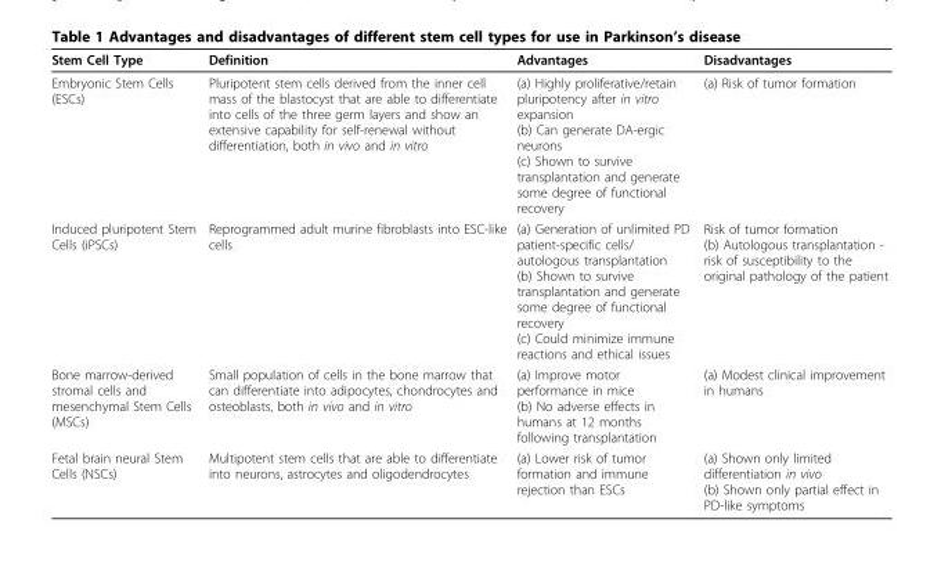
<table><thead><tr><td>Stem Cell Type</td><td>Definition</td><td>Advantages</td><td>Disadvantages</td></tr></thead><tbody><tr><td>Embryonic Stem Cells (ESCs)</td><td>Pluripotent stem cells derived from the inner cell mass of the blastocyst that are able to differentiate into cells of the three germ layers and show an extensive capability for self-renewal without differentiation, both in vivo and in vitro</td><td>(a) Highly proliferative/retain pluripotency after in vitro expansion (b) Can generate DA-ergic neurons (c) Shown to survive transplantation and generate some degree of functional recovery</td><td>(a) Risk of tumor formation</td></tr><tr><td>Induced pluripotent Stem Cells (iPSCs)</td><td>Reprogrammed adult murine fibroblasts into ESC-like cells</td><td>(a) Generation of unlimited PD patient-specific cells/ autologous transplantation (b) Shown to survive transplantation and generate some degree of functional recovery (c) Could minimize immune reactions and ethical issues</td><td>Risk of tumor formation (b) Autologous transplantation - risk of susceptibility to the original pathology of the patient</td></tr><tr><td>Bone marrow-derived stromal cells and mesenchymal Stem Cells (MSCs)</td><td>Small population of cells in the bone marrow that can differentiate into adipocytes, chondrocytes and osteoblasts, both in vivo and in vitro</td><td>(a) Improve motor performance in mice (b) No adverse effects in humans at 12 months following transplantation</td><td>(a) Modest clinical improvement in humans</td></tr><tr><td>Fetal brain neural Stem Cells (NSCs)</td><td>Multipotent stem cells that are able to differentiate into neurons, astrocytes and oligodendrocytes</td><td>(a) Lower risk of tumor formation and immune rejection than ESCs</td><td>(a) Shown only limited differentiation in vivo (b) Shown only partial effect in PD-like symptoms</td></tr></tbody></table>